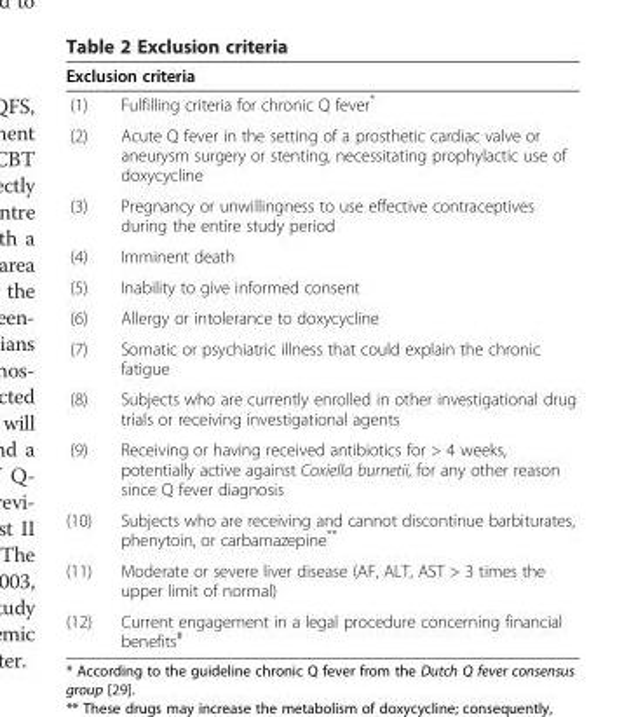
<table><thead><tr><td colspan="2">Exclusion criteria</td></tr><tr><td>(1)</td><td>Fulfilling criteria for chronic Q fever*</td></tr></thead><tbody><tr><td>(2)</td><td>Acute Q fever in the setting of a prosthetic cardiac valve or aneurysm surgery or stenting, necessitating prophylactic use of doxycycline</td></tr><tr><td>(3)</td><td>Pregnancy or unwillingness to use effective contraceptives during the entire study period</td></tr><tr><td>(4)</td><td>Imminent death</td></tr><tr><td>(5)</td><td>Inability to give informed consent</td></tr><tr><td>(6)</td><td>Allergy or intolerance to doxycycline</td></tr><tr><td>(7)</td><td>Somatic or psychiatric illness that could explain the chronic fatigue</td></tr><tr><td>(8)</td><td>Subjects who are currently enrolled in other investigational drug trials or receiving investigational agents</td></tr><tr><td>(9)</td><td>Receiving or having received antibiotics for &gt; 4 weeks, potentially active against Coxiella burnetii, for any other reason since Q fever diagnosis</td></tr><tr><td>(10)</td><td>Subjects who are receiving and cannot discontinue barbiturates, phenytoin, or carbamazepine**</td></tr><tr><td>(11)</td><td>Moderate or severe liver disease (AF, ALT, AST &gt; 3 times the upper limit of normal)</td></tr><tr><td>(12)</td><td>Current engagement in a legal procedure concerning financial benefits<sup>#</sup></td></tr></tbody></table>